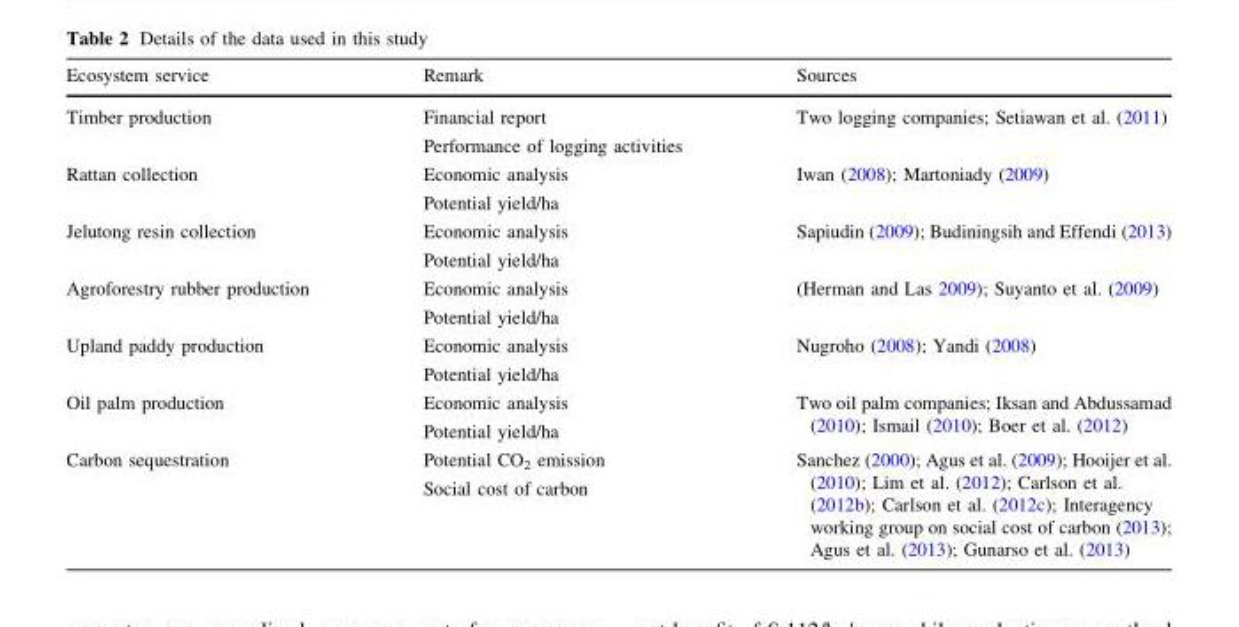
<table><thead><tr><td>Ecosystem service</td><td>Remark</td><td>Sources</td></tr></thead><tbody><tr><td>Timber production</td><td>Financial report Performance of logging activities</td><td>Two logging companies; Setiawan et al. (2011)</td></tr><tr><td>Rattan collection</td><td>Economic analysis Potential yield/ha</td><td>Iwan (2008); Martoniady (2009)</td></tr><tr><td>Jelutong resin collection</td><td>Economic analysis Potential yield/ha</td><td>Sapiudin (2009); Budiningsih and Effendi (2013)</td></tr><tr><td>Agroforestry rubber production</td><td>Economic analysis Potential yield/ha</td><td>(Herman and Las 2009); Suyanto et al. (2009)</td></tr><tr><td>Upland paddy production</td><td>Economic analysis Potential yield/ha</td><td>Nugroho (2008); Yandi (2008)</td></tr><tr><td>Oil palm production</td><td>Economic analysis Potential yield/ha</td><td>Two oil palm companies; Iksan and Abdussamad (2010); Ismail (2010); Boer et al. (2012)</td></tr><tr><td>Carbon sequestration</td><td>Potential CO<sub>2</sub> emission Social cost of carbon</td><td>Sanchez (2000); Agus et al. (2009); Hooijer et al. (2010); Lim et al. (2012); Carlson et al. (2012b); Carlson et al. (2012c); Interagency working group on social cost of carbon (2013); Agus et al. (2013); Gunarso et al. (2013)</td></tr></tbody></table>